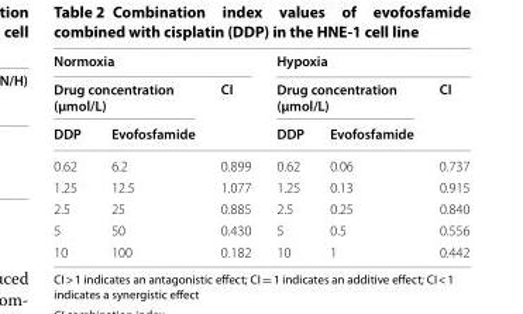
<table><thead><tr><td colspan="3">Normoxia</td><td colspan="3">Hypoxia</td></tr><tr><td colspan="2">Drug concentration (μmol/L)</td><td rowspan="2">CI</td><td colspan="2">Drug concentration (μmol/L)</td><td rowspan="2">CI</td></tr><tr><td>DDP</td><td>Evofosfamide</td><td>DDP</td><td>Evofosfamide</td></tr></thead><tbody><tr><td>0.62</td><td>6.2</td><td>0.899</td><td>0.62</td><td>0.06</td><td>0.737</td></tr><tr><td>1.25</td><td>12.5</td><td>1.077</td><td>1.25</td><td>0.13</td><td>0.915</td></tr><tr><td>2.5</td><td>25</td><td>0.885</td><td>2.5</td><td>0.25</td><td>0.840</td></tr><tr><td>5</td><td>50</td><td>0.430</td><td>5</td><td>0.5</td><td>0.556</td></tr><tr><td>10</td><td>100</td><td>0.182</td><td>10</td><td>1</td><td>0.442</td></tr></tbody></table>